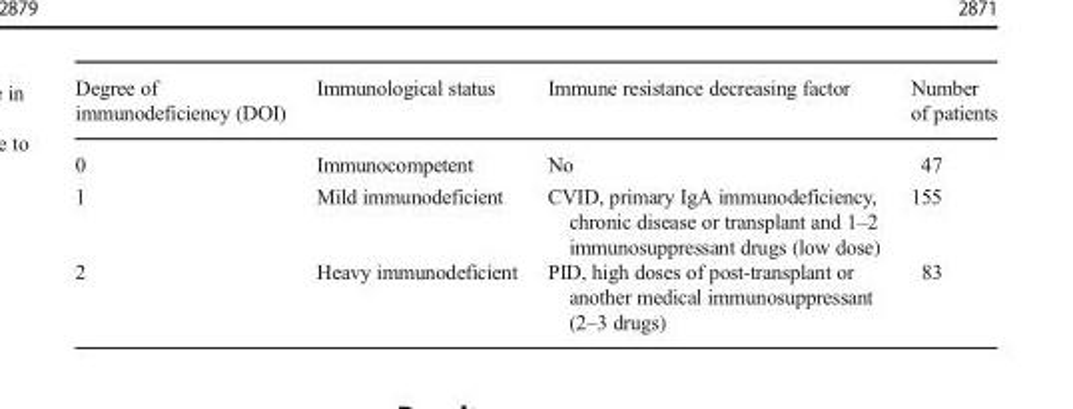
<table><thead><tr><td>Degree of immunodeficiency (DOI)</td><td>Immunological status</td><td>Immune resistance decreasing factor</td><td>Number of patients</td></tr></thead><tbody><tr><td>0</td><td>Immunocompetent</td><td>No</td><td>47</td></tr><tr><td>1</td><td>Mild immunodeficient</td><td>CVID, primary IgA immunodeficiency, chronic disease or transplant and 1–2 immunosuppressant drugs (low dose)</td><td>155</td></tr><tr><td>2</td><td>Heavy immunodeficient</td><td>PID, high doses of post-transplant or another medical immunosuppressant (2–3 drugs)</td><td>83</td></tr></tbody></table>